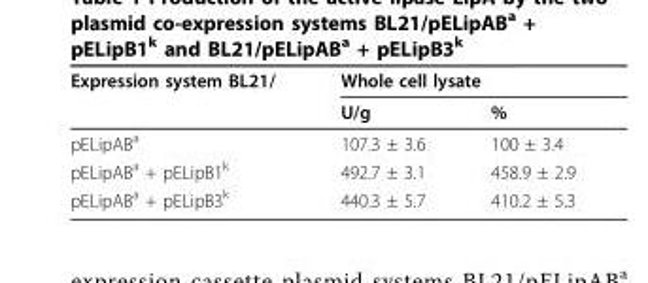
<table><thead><tr><td rowspan="2">Expression system BL21/</td><td colspan="2">Whole cell lysate</td></tr><tr><td>U/g</td><td>%</td></tr></thead><tbody><tr><td>pELipAB<sup>a</sup></td><td>107.3 ± 3.6</td><td>100 ± 3.4</td></tr><tr><td>pELipAB<sup>a</sup> + pELipB1<sup>k</sup></td><td>492.7 ± 3.1</td><td>458.9 ± 2.9</td></tr><tr><td>pELipAB<sup>a</sup> + pELipB3<sup>k</sup></td><td>440.3 ± 5.7</td><td>410.2 ± 5.3</td></tr></tbody></table>